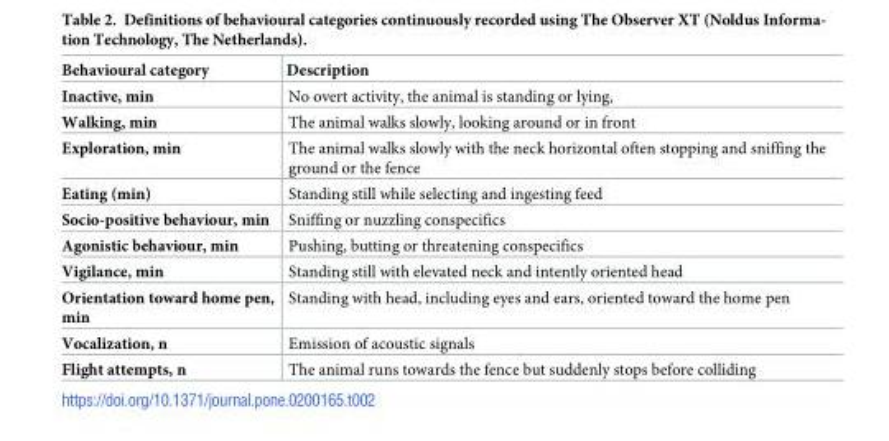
<table><thead><tr><td>Behavioural category</td><td>Description</td></tr></thead><tbody><tr><td>Inactive, min</td><td>No overt activity, the animal is standing or lying,</td></tr><tr><td>Walking, min</td><td>The animal walks slowly, looking around or in front</td></tr><tr><td>Exploration, min</td><td>The animal walks slowly with the neck horizontal often stopping and sniffing the ground or the fence</td></tr><tr><td>Eating (min)</td><td>Standing still while selecting and ingesting feed</td></tr><tr><td>Socio-positive behaviour, min</td><td>Sniffing or nuzzling conspecifics</td></tr><tr><td>Agonistic behaviour, min</td><td>Pushing, butting or threatening conspecifics</td></tr><tr><td>Vigilance, min</td><td>Standing still with elevated neck and intently oriented head</td></tr><tr><td>Orientation toward home pen, min</td><td>Standing with head, including eyes and ears, oriented toward the home pen</td></tr><tr><td>Vocalization, n</td><td>Emission of acoustic signals</td></tr><tr><td>Flight attempts, n</td><td>The animal runs towards the fence but suddenly stops before colliding</td></tr></tbody></table>